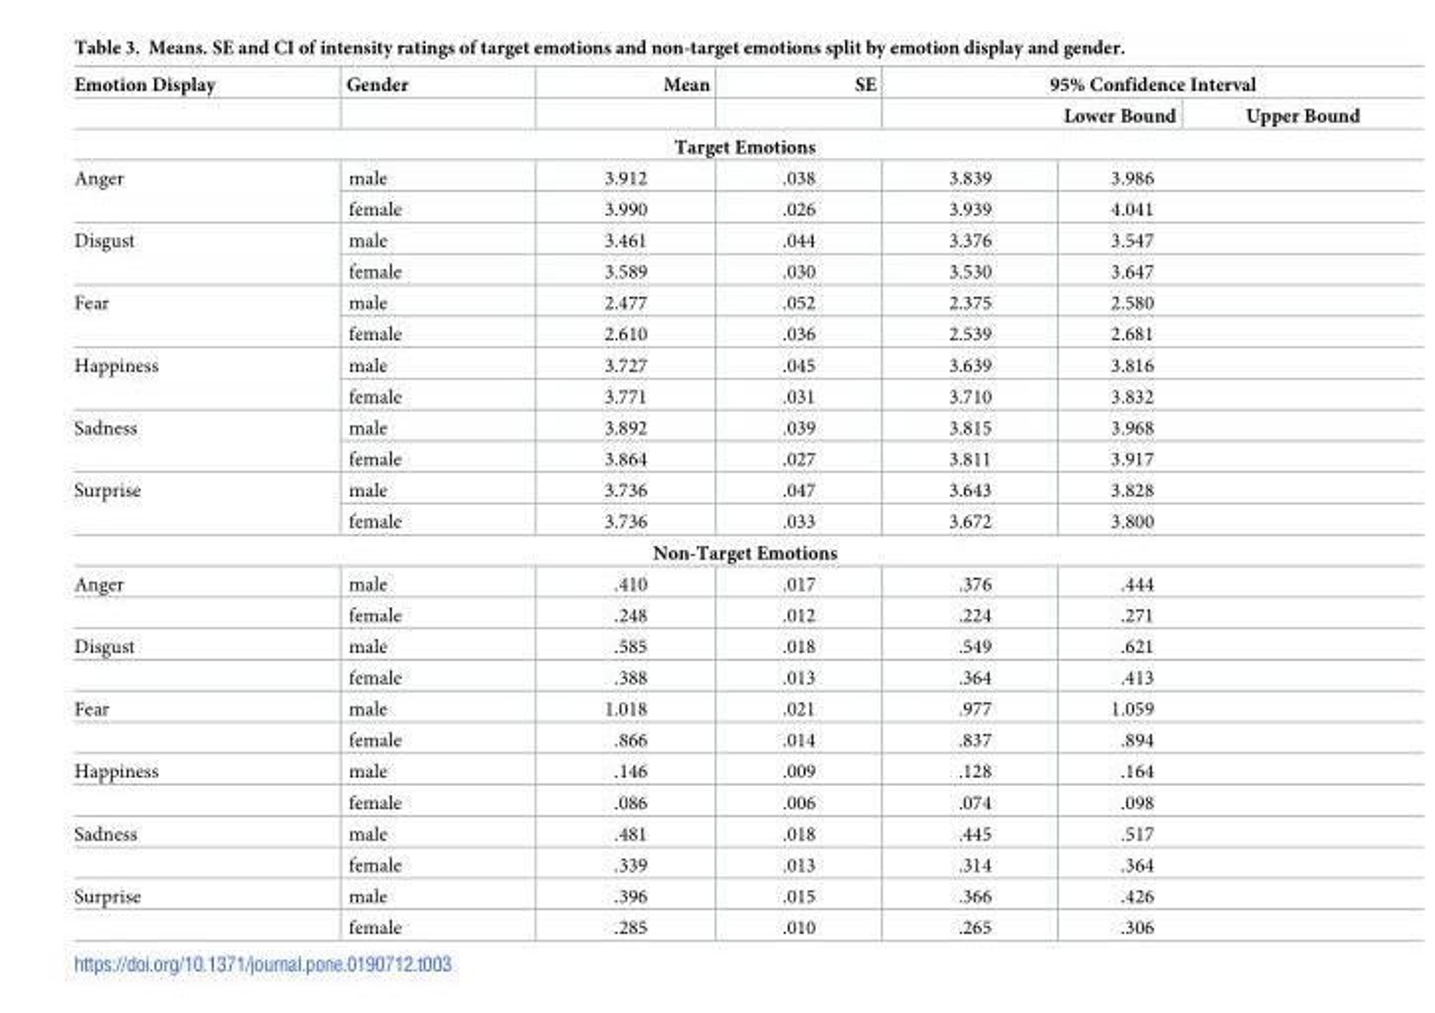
<table><thead><tr><td rowspan="2">Emotion Display</td><td rowspan="2">Gender</td><td rowspan="2">Mean</td><td rowspan="2">SE</td><td colspan="3">95% Confidence Interval</td></tr><tr><td colspan="2">Lower Bound</td><td>Upper Bound</td></tr></thead><tbody><tr><td colspan="7">Target Emotions</td></tr><tr><td rowspan="2">Anger</td><td>male</td><td>3.912</td><td>.038</td><td>3.839</td><td colspan="2">3.986</td></tr><tr><td>female</td><td>3.990</td><td>.026</td><td>3.939</td><td colspan="2">4.041</td></tr><tr><td rowspan="2">Disgust</td><td>male</td><td>3.461</td><td>.044</td><td>3.376</td><td colspan="2">3.547</td></tr><tr><td>female</td><td>3.589</td><td>.030</td><td>3.530</td><td colspan="2">3.647</td></tr><tr><td rowspan="2">Fear</td><td>male</td><td>2.477</td><td>.052</td><td>2.375</td><td colspan="2">2.580</td></tr><tr><td>female</td><td>2.610</td><td>.036</td><td>2.539</td><td colspan="2">2.681</td></tr><tr><td rowspan="2">Happiness</td><td>male</td><td>3.727</td><td>.045</td><td>3.639</td><td colspan="2">3.816</td></tr><tr><td>female</td><td>3.771</td><td>.031</td><td>3.710</td><td colspan="2">3.832</td></tr><tr><td rowspan="2">Sadness</td><td>male</td><td>3.892</td><td>.039</td><td>3.815</td><td colspan="2">3.968</td></tr><tr><td>female</td><td>3.864</td><td>.027</td><td>3.811</td><td colspan="2">3.917</td></tr><tr><td rowspan="2">Surprise</td><td>male</td><td>3.736</td><td>.047</td><td>3.643</td><td colspan="2">3.828</td></tr><tr><td>female</td><td>3.736</td><td>.033</td><td>3.672</td><td colspan="2">3.800</td></tr><tr><td colspan="7">Non-Target Emotions</td></tr><tr><td rowspan="2">Anger</td><td>male</td><td>.410</td><td>.017</td><td>.376</td><td colspan="2">.444</td></tr><tr><td>female</td><td>.248</td><td>.012</td><td>.224</td><td colspan="2">.271</td></tr><tr><td rowspan="2">Disgust</td><td>male</td><td>.585</td><td>.018</td><td>.549</td><td colspan="2">.621</td></tr><tr><td>female</td><td>.388</td><td>.013</td><td>.364</td><td colspan="2">.413</td></tr><tr><td rowspan="2">Fear</td><td>male</td><td>1.018</td><td>.021</td><td>.977</td><td colspan="2">1.059</td></tr><tr><td>female</td><td>.866</td><td>.014</td><td>.837</td><td colspan="2">.894</td></tr><tr><td rowspan="2">Happiness</td><td>male</td><td>.146</td><td>.009</td><td>.128</td><td colspan="2">.164</td></tr><tr><td>female</td><td>.086</td><td>.006</td><td>.074</td><td colspan="2">.098</td></tr><tr><td rowspan="2">Sadness</td><td>male</td><td>.481</td><td>.018</td><td>.445</td><td colspan="2">.517</td></tr><tr><td>female</td><td>.339</td><td>.013</td><td>.314</td><td colspan="2">.364</td></tr><tr><td rowspan="2">Surprise</td><td>male</td><td>.396</td><td>.015</td><td>.366</td><td colspan="2">.426</td></tr><tr><td>female</td><td>.285</td><td>.010</td><td>.265</td><td colspan="2">.306</td></tr></tbody></table>